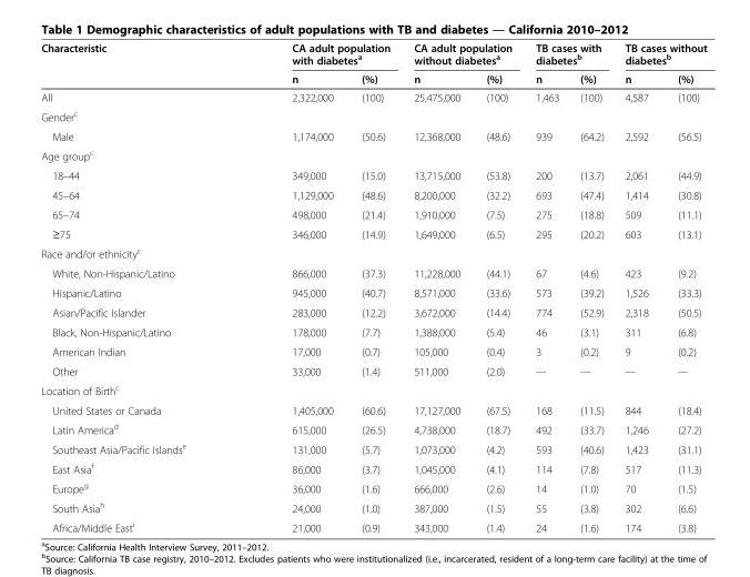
<table><thead><tr><td rowspan="2">Characteristic</td><td colspan="2">CA adult population with diabetes<sup>a</sup></td><td colspan="2">CA adult population without diabetes<sup>a</sup></td><td colspan="2">TB cases with diabetes<sup>b</sup></td><td colspan="2">TB cases without diabetes<sup>b</sup></td></tr><tr><td>n</td><td>(%)</td><td>n</td><td>(%)</td><td>n</td><td>(%)</td><td>n</td><td>(%)</td></tr></thead><tbody><tr><td>All</td><td>2,322,000</td><td>(100)</td><td>25,475,000</td><td>(100)</td><td>1,463</td><td>(100)</td><td>4,587</td><td>(100)</td></tr><tr><td colspan="9">Gender<sup>c</sup></td></tr><tr><td>Male</td><td>1,174,000</td><td>(50.6)</td><td>12,368,000</td><td>(48.6)</td><td>939</td><td>(64.2)</td><td>2,592</td><td>(56.5)</td></tr><tr><td colspan="9">Age group<sup>c</sup></td></tr><tr><td>18–44</td><td>349,000</td><td>(15.0)</td><td>13,715,000</td><td>(53.8)</td><td>200</td><td>(13.7)</td><td>2,061</td><td>(44.9)</td></tr><tr><td>45–64</td><td>1,129,000</td><td>(48.6)</td><td>8,200,000</td><td>(32.2)</td><td>693</td><td>(47.4)</td><td>1,414</td><td>(30.8)</td></tr><tr><td>65–74</td><td>498,000</td><td>(21.4)</td><td>1,910,000</td><td>(7.5)</td><td>275</td><td>(18.8)</td><td>509</td><td>(11.1)</td></tr><tr><td>≥75</td><td>346,000</td><td>(14.9)</td><td>1,649,000</td><td>(6.5)</td><td>295</td><td>(20.2)</td><td>603</td><td>(13.1)</td></tr><tr><td colspan="9">Race and/or ethnicity<sup>c</sup></td></tr><tr><td>White, Non-Hispanic/Latino</td><td>866,000</td><td>(37.3)</td><td>11,228,000</td><td>(44.1)</td><td>67</td><td>(4.6)</td><td>423</td><td>(9.2)</td></tr><tr><td>Hispanic/Latino</td><td>945,000</td><td>(40.7)</td><td>8,571,000</td><td>(33.6)</td><td>573</td><td>(39.2)</td><td>1,526</td><td>(33.3)</td></tr><tr><td>Asian/Pacific Islander</td><td>283,000</td><td>(12.2)</td><td>3,672,000</td><td>(14.4)</td><td>774</td><td>(52.9)</td><td>2,318</td><td>(50.5)</td></tr><tr><td>Black, Non-Hispanic/Latino</td><td>178,000</td><td>(7.7)</td><td>1,388,000</td><td>(5.4)</td><td>46</td><td>(3.1)</td><td>311</td><td>(6.8)</td></tr><tr><td>American Indian</td><td>17,000</td><td>(0.7)</td><td>105,000</td><td>(0.4)</td><td>3</td><td>(0.2)</td><td>9</td><td>(0.2)</td></tr><tr><td>Other</td><td>33,000</td><td>(1.4)</td><td>511,000</td><td>(2.0)</td><td>---</td><td>---</td><td>---</td><td>---</td></tr><tr><td colspan="9">Location of Birth<sup>c</sup></td></tr><tr><td>United States or Canada</td><td>1,405,000</td><td>(60.6)</td><td>17,127,000</td><td>(67.5)</td><td>168</td><td>(11.5)</td><td>844</td><td>(18.4)</td></tr><tr><td>Latin America<sup>d</sup></td><td>615,000</td><td>(26.5)</td><td>4,738,000</td><td>(18.7)</td><td>492</td><td>(33.7)</td><td>1,246</td><td>(27.2)</td></tr><tr><td>Southeast Asia/Pacific Islands<sup>e</sup></td><td>131,000</td><td>(5.7)</td><td>1,073,000</td><td>(4.2)</td><td>593</td><td>(40.6)</td><td>1,423</td><td>(31.1)</td></tr><tr><td>East Asia<sup>f</sup></td><td>86,000</td><td>(3.7)</td><td>1,045,000</td><td>(4.1)</td><td>114</td><td>(7.8)</td><td>517</td><td>(11.3)</td></tr><tr><td>Europe<sup>g</sup></td><td>36,000</td><td>(1.6)</td><td>666,000</td><td>(2.6)</td><td>14</td><td>(1.0)</td><td>70</td><td>(1.5)</td></tr><tr><td>South Asia<sup>h</sup></td><td>24,000</td><td>(1.0)</td><td>387,000</td><td>(1.5)</td><td>55</td><td>(3.8)</td><td>302</td><td>(6.6)</td></tr><tr><td>Africa/Middle East<sup>i</sup></td><td>21,000</td><td>(0.9)</td><td>343,000</td><td>(1.4)</td><td>24</td><td>(1.6)</td><td>174</td><td>(3.8)</td></tr></tbody></table>